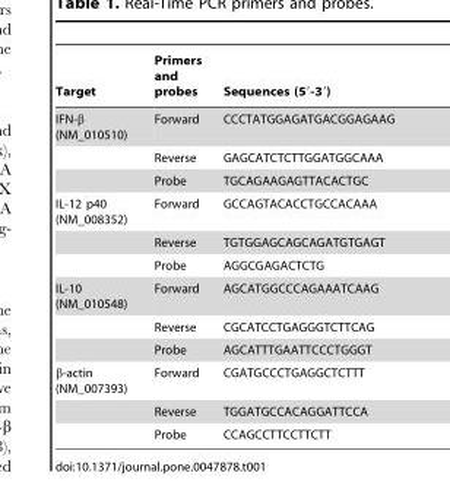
<table><thead><tr><td>Target</td><td>Primers and probes</td><td>Sequences (5′-3′)</td></tr></thead><tbody><tr><td rowspan="3">IFN-β (NM_010510)</td><td>Forward</td><td>CCCTATGGAGATGACGGAGAAG</td></tr><tr><td>Reverse</td><td>GAGCATCTCTTGGATGGCAAA</td></tr><tr><td>Probe</td><td>TGCAGAAGAGTTACACTGC</td></tr><tr><td rowspan="3">IL-12 p40 (NM_008352)</td><td>Forward</td><td>GCCAGTACACCTGCCACAAA</td></tr><tr><td>Reverse</td><td>TGTGGAGCAGCAGATGTGAGT</td></tr><tr><td>Probe</td><td>AGGCGAGACTCTG</td></tr><tr><td rowspan="3">IL-10 (NM_010548)</td><td>Forward</td><td>AGCATGGCCCAGAAATCAAG</td></tr><tr><td>Reverse</td><td>CGCATCCTGAGGGTCTTCAG</td></tr><tr><td>Probe</td><td>AGCATTTGAATTCCCTGGGT</td></tr><tr><td rowspan="3">β-actin (NM_007393)</td><td>Forward</td><td>CGATGCCCTGAGGCTCTTT</td></tr><tr><td>Reverse</td><td>TGGATGCCACAGGATTCCA</td></tr><tr><td>Probe</td><td>CCAGCCTTCCTTCTT</td></tr></tbody></table>